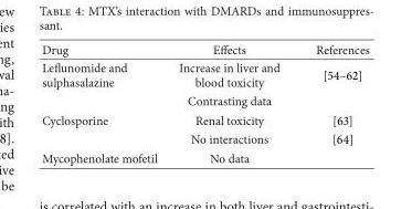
<table><thead><tr><td>Drug</td><td>Effects</td><td>References</td></tr></thead><tbody><tr><td rowspan="2">Leflunomide and sulphasalazine</td><td>Increase in liver and blood toxicity</td><td>[54–62]</td></tr><tr><td>Contrasting data</td><td></td></tr><tr><td rowspan="2">Cyclosporine</td><td>Renal toxicity</td><td>[63]</td></tr><tr><td>No interactions</td><td>[64]</td></tr><tr><td>Mycophenolate mofetil</td><td>No data</td><td></td></tr></tbody></table>